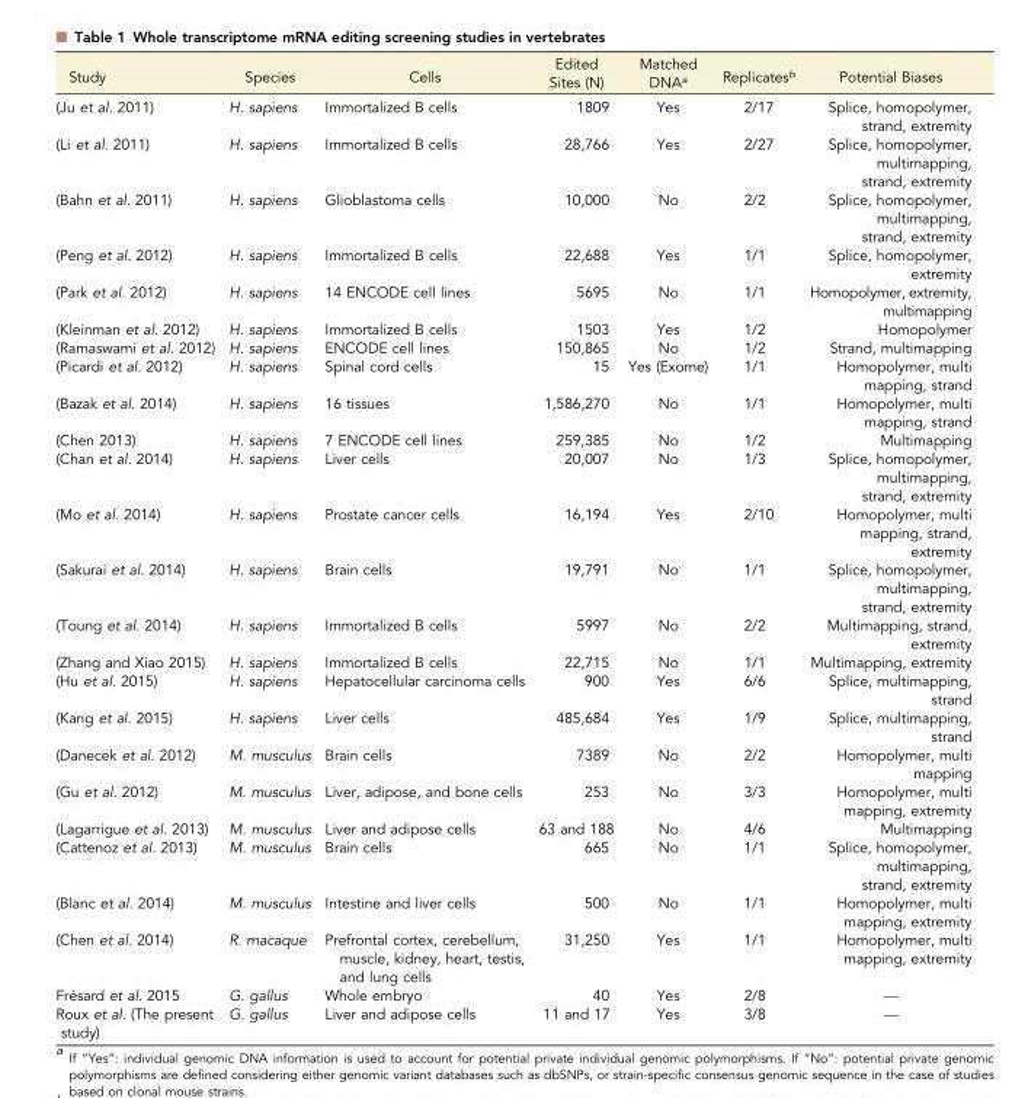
<table><thead><tr><td>Study</td><td>Species</td><td>Cells</td><td>Edited Sites (N)</td><td>Matched DNA<sup>a</sup></td><td>Replicates<sup>b</sup></td><td>Potential Biases</td></tr></thead><tbody><tr><td>(Ju et al. 2011)</td><td>H. sapiens</td><td>Immortalized B cells</td><td>1809</td><td>Yes</td><td>2/17</td><td>Splice, homopolymer, strand, extremity</td></tr><tr><td>(Li et al. 2011)</td><td>H. sapiens</td><td>Immortalized B cells</td><td>28,766</td><td>Yes</td><td>2/27</td><td>Splice, homopolymer, multimapping, strand, extremity</td></tr><tr><td>(Bahn et al. 2011)</td><td>H. sapiens</td><td>Glioblastoma cells</td><td>10,000</td><td>No</td><td>2/2</td><td>Splice, homopolymer, multimapping, strand, extremity</td></tr><tr><td>(Peng et al. 2012)</td><td>H. sapiens</td><td>Immortalized B cells</td><td>22,688</td><td>Yes</td><td>1/1</td><td>Splice, homopolymer, extremity</td></tr><tr><td>(Park et al. 2012)</td><td>H. sapiens</td><td>14 ENCODE cell lines</td><td>5695</td><td>No</td><td>1/1</td><td>Homopolymer, extremity, multimapping</td></tr><tr><td>(Kleinman et al. 2012)</td><td>H. sapiens</td><td>Immortalized B cells</td><td>1503</td><td>Yes</td><td>1/2</td><td>Homopolymer</td></tr><tr><td>(Ramaswami et al. 2012)</td><td>H. sapiens</td><td>ENCODE cell lines</td><td>150,865</td><td>No</td><td>1/2</td><td>Strand, multimapping</td></tr><tr><td>(Picardi et al. 2012)</td><td>H. sapiens</td><td>Spinal cord cells</td><td>15</td><td>Yes (Exome)</td><td>1/1</td><td>Homopolymer, multi mapping, strand</td></tr><tr><td>(Bazak et al. 2014)</td><td>H. sapiens</td><td>16 tissues</td><td>1,586,270</td><td>No</td><td>1/1</td><td>Homopolymer, multi mapping, strand</td></tr><tr><td>(Chen 2013)</td><td>H. sapiens</td><td>7 ENCODE cell lines</td><td>259,385</td><td>No</td><td>1/2</td><td>Multimapping</td></tr><tr><td>(Chan et al. 2014)</td><td>H. sapiens</td><td>Liver cells</td><td>20,007</td><td>No</td><td>1/3</td><td>Splice, homopolymer, multimapping, strand, extremity</td></tr><tr><td>(Mo et al. 2014)</td><td>H. sapiens</td><td>Prostate cancer cells</td><td>16,194</td><td>Yes</td><td>2/10</td><td>Homopolymer, multi mapping, strand, extremity</td></tr><tr><td>(Sakurai et al. 2014)</td><td>H. sapiens</td><td>Brain cells</td><td>19,791</td><td>No</td><td>1/1</td><td>Splice, homopolymer, multimapping, strand, extremity</td></tr><tr><td>(Toung et al. 2014)</td><td>H. sapiens</td><td>Immortalized B cells</td><td>5997</td><td>No</td><td>2/2</td><td>Multimapping, strand, extremity</td></tr><tr><td>(Zhang and Xiao 2015)</td><td>H. sapiens</td><td>Immortalized B cells</td><td>22,715</td><td>No</td><td>1/1</td><td>Multimapping, extremity</td></tr><tr><td>(Hu et al. 2015)</td><td>H. sapiens</td><td>Hepatocellular carcinoma cells</td><td>900</td><td>Yes</td><td>6/6</td><td>Splice, multimapping, strand</td></tr><tr><td>(Kang et al. 2015)</td><td>H. sapiens</td><td>Liver cells</td><td>485,684</td><td>Yes</td><td>1/9</td><td>Splice, multimapping, strand</td></tr><tr><td>(Danecek et al. 2012)</td><td>M. musculus</td><td>Brain cells</td><td>7389</td><td>No</td><td>2/2</td><td>Homopolymer, multi mapping</td></tr><tr><td>(Gu et al. 2012)</td><td>M. musculus</td><td>Liver, adipose, and bone cells</td><td>253</td><td>No</td><td>3/3</td><td>Homopolymer, multi mapping, extremity</td></tr><tr><td>(Lagarrigue et al. 2013)</td><td>M. musculus</td><td>Liver and adipose cells</td><td>63 and 188</td><td>No</td><td>4/6</td><td>Multimapping</td></tr><tr><td>(Cattenoz et al. 2013)</td><td>M. musculus</td><td>Brain cells</td><td>665</td><td>No</td><td>1/1</td><td>Splice, homopolymer, multimapping, strand, extremity</td></tr><tr><td>(Blanc et al. 2014)</td><td>M. musculus</td><td>Intestine and liver cells</td><td>500</td><td>No</td><td>1/1</td><td>Homopolymer, multi mapping, extremity</td></tr><tr><td>(Chen et al. 2014)</td><td>R. macaque</td><td>Prefrontal cortex, cerebellum, muscle, kidney, heart, testis, and lung cells</td><td>31,250</td><td>Yes</td><td>1/1</td><td>Homopolymer, multi mapping, extremity</td></tr><tr><td>Frésard et al. 2015</td><td>G. gallus</td><td>Whole embryo</td><td>40</td><td>Yes</td><td>2/8</td><td>—</td></tr><tr><td>Roux et al. (The present study)</td><td>G. gallus</td><td>Liver and adipose cells</td><td>11 and 17</td><td>Yes</td><td>3/8</td><td>—</td></tr></tbody></table>